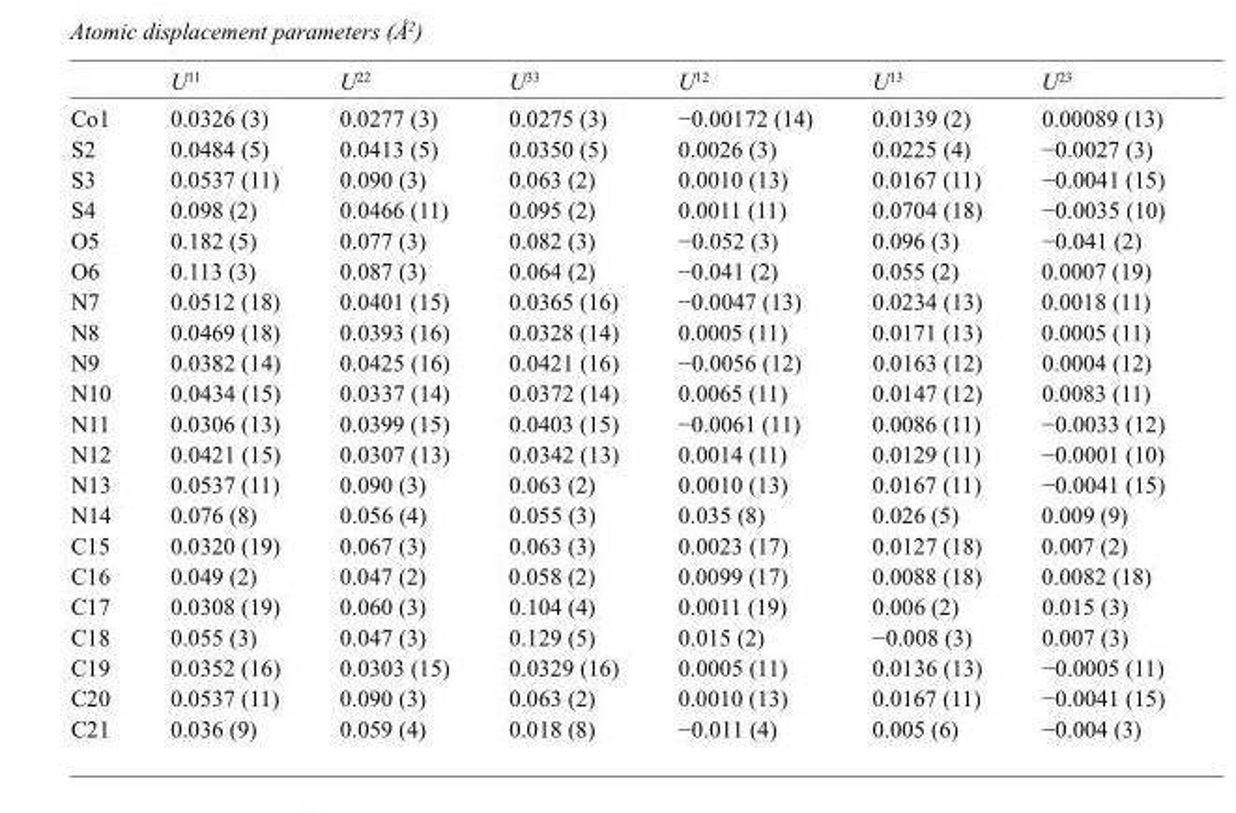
<table><thead><tr><td></td><td>U<sup>11</sup></td><td>U<sup>22</sup></td><td>U<sup>33</sup></td><td>U<sup>12</sup></td><td>U<sup>13</sup></td><td>U<sup>23</sup></td></tr></thead><tbody><tr><td>Co1</td><td>0.0326 (3)</td><td>0.0277 (3)</td><td>0.0275 (3)</td><td>−0.00172 (14)</td><td>0.0139 (2)</td><td>0.00089 (13)</td></tr><tr><td>S2</td><td>0.0484 (5)</td><td>0.0413 (5)</td><td>0.0350 (5)</td><td>0.0026 (3)</td><td>0.0225 (4)</td><td>−0.0027 (3)</td></tr><tr><td>S3</td><td>0.0537 (11)</td><td>0.090 (3)</td><td>0.063 (2)</td><td>0.0010 (13)</td><td>0.0167 (11)</td><td>−0.0041 (15)</td></tr><tr><td>S4</td><td>0.098 (2)</td><td>0.0466 (11)</td><td>0.095 (2)</td><td>0.0011 (11)</td><td>0.0704 (18)</td><td>−0.0035 (10)</td></tr><tr><td>O5</td><td>0.182 (5)</td><td>0.077 (3)</td><td>0.082 (3)</td><td>−0.052 (3)</td><td>0.096 (3)</td><td>−0.041 (2)</td></tr><tr><td>O6</td><td>0.113 (3)</td><td>0.087 (3)</td><td>0.064 (2)</td><td>−0.041 (2)</td><td>0.055 (2)</td><td>0.0007 (19)</td></tr><tr><td>N7</td><td>0.0512 (18)</td><td>0.0401 (15)</td><td>0.0365 (16)</td><td>−0.0047 (13)</td><td>0.0234 (13)</td><td>0.0018 (11)</td></tr><tr><td>N8</td><td>0.0469 (18)</td><td>0.0393 (16)</td><td>0.0328 (14)</td><td>0.0005 (11)</td><td>0.0171 (13)</td><td>0.0005 (11)</td></tr><tr><td>N9</td><td>0.0382 (14)</td><td>0.0425 (16)</td><td>0.0421 (16)</td><td>−0.0056 (12)</td><td>0.0163 (12)</td><td>0.0004 (12)</td></tr><tr><td>N10</td><td>0.0434 (15)</td><td>0.0337 (14)</td><td>0.0372 (14)</td><td>0.0065 (11)</td><td>0.0147 (12)</td><td>0.0083 (11)</td></tr><tr><td>N11</td><td>0.0306 (13)</td><td>0.0399 (15)</td><td>0.0403 (15)</td><td>−0.0061 (11)</td><td>0.0086 (11)</td><td>−0.0033 (12)</td></tr><tr><td>N12</td><td>0.0421 (15)</td><td>0.0307 (13)</td><td>0.0342 (13)</td><td>0.0014 (11)</td><td>0.0129 (11)</td><td>−0.0001 (10)</td></tr><tr><td>N13</td><td>0.0537 (11)</td><td>0.090 (3)</td><td>0.063 (2)</td><td>0.0010 (13)</td><td>0.0167 (11)</td><td>−0.0041 (15)</td></tr><tr><td>N14</td><td>0.076 (8)</td><td>0.056 (4)</td><td>0.055 (3)</td><td>0.035 (8)</td><td>0.026 (5)</td><td>0.009 (9)</td></tr><tr><td>C15</td><td>0.0320 (19)</td><td>0.067 (3)</td><td>0.063 (3)</td><td>0.0023 (17)</td><td>0.0127 (18)</td><td>0.007 (2)</td></tr><tr><td>C16</td><td>0.049 (2)</td><td>0.047 (2)</td><td>0.058 (2)</td><td>0.0099 (17)</td><td>0.0088 (18)</td><td>0.0082 (18)</td></tr><tr><td>C17</td><td>0.0308 (19)</td><td>0.060 (3)</td><td>0.104 (4)</td><td>0.0011 (19)</td><td>0.006 (2)</td><td>0.015 (3)</td></tr><tr><td>C18</td><td>0.055 (3)</td><td>0.047 (3)</td><td>0.129 (5)</td><td>0.015 (2)</td><td>−0.008 (3)</td><td>0.007 (3)</td></tr><tr><td>C19</td><td>0.0352 (16)</td><td>0.0303 (15)</td><td>0.0329 (16)</td><td>0.0005 (11)</td><td>0.0136 (13)</td><td>−0.0005 (11)</td></tr><tr><td>C20</td><td>0.0537 (11)</td><td>0.090 (3)</td><td>0.063 (2)</td><td>0.0010 (13)</td><td>0.0167 (11)</td><td>−0.0041 (15)</td></tr><tr><td>C21</td><td>0.036 (9)</td><td>0.059 (4)</td><td>0.018 (8)</td><td>−0.011 (4)</td><td>0.005 (6)</td><td>−0.004 (3)</td></tr></tbody></table>